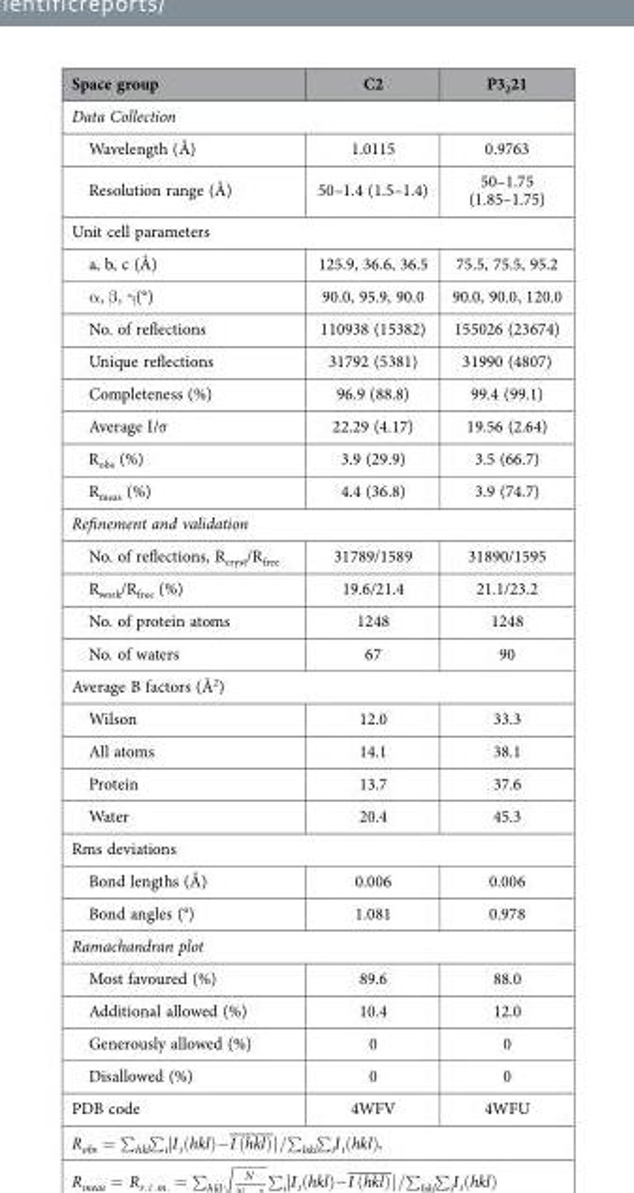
<table><thead><tr><td>Space group</td><td>C2</td><td>P3<sub>2</sub>21</td></tr></thead><tbody><tr><td colspan="3">Data Collection</td></tr><tr><td>Wavelength (Å)</td><td>1.0115</td><td>0.9763</td></tr><tr><td>Resolution range (Å)</td><td>50–1.4 (1.5–1.4)</td><td>50–1.75 (1.85–1.75)</td></tr><tr><td colspan="3">Unit cell parameters</td></tr><tr><td>a, b, c (Å)</td><td>125.9, 36.6, 36.5</td><td>75.5, 75.5, 95.2</td></tr><tr><td>α , β , γ (°)</td><td>90.0, 95.9, 90.0</td><td>90.0, 90.0, 120.0</td></tr><tr><td>No. of reflections</td><td>110938 (15382)</td><td>155026 (23674)</td></tr><tr><td>Unique reflections</td><td>31792 (5381)</td><td>31990 (4807)</td></tr><tr><td>Completeness (%)</td><td>96.9 (88.8)</td><td>99.4 (99.1)</td></tr><tr><td>Average I/σ</td><td>22.29 (4.17)</td><td>19.56 (2.64)</td></tr><tr><td>R<sub>obs</sub> (%)</td><td>3.9 (29.9)</td><td>3.5 (66.7)</td></tr><tr><td>R<sub>meas</sub> (%)</td><td>4.4 (36.8)</td><td>3.9 (74.7)</td></tr><tr><td colspan="3">Refinement and validation</td></tr><tr><td>No. of reflections, R<sub>cryst</sub>/R<sub>free</sub></td><td>31789/1589</td><td>31890/1595</td></tr><tr><td>R<sub>work</sub>/R<sub>free</sub> (%)</td><td>19.6/21.4</td><td>21.1/23.2</td></tr><tr><td>No. of protein atoms</td><td>1248</td><td>1248</td></tr><tr><td>No. of waters</td><td>67</td><td>90</td></tr><tr><td colspan="3">Average B factors (Å<sup>2</sup>)</td></tr><tr><td>Wilson</td><td>12.0</td><td>33.3</td></tr><tr><td>All atoms</td><td>14.1</td><td>38.1</td></tr><tr><td>Protein</td><td>13.7</td><td>37.6</td></tr><tr><td>Water</td><td>20.4</td><td>45.3</td></tr><tr><td colspan="3">Rms deviations</td></tr><tr><td>Bond lengths (Å)</td><td>0.006</td><td>0.006</td></tr><tr><td>Bond angles (°)</td><td>1.081</td><td>0.978</td></tr><tr><td colspan="3">Ramachandran plot</td></tr><tr><td>Most favoured (%)</td><td>89.6</td><td>88.0</td></tr><tr><td>Additional allowed (%)</td><td>10.4</td><td>12.0</td></tr><tr><td>Generously allowed (%)</td><td>0</td><td>0</td></tr><tr><td>Disallowed (%)</td><td>0</td><td>0</td></tr><tr><td>PDB code</td><td>4WFV</td><td>4WFU</td></tr></tbody></table>